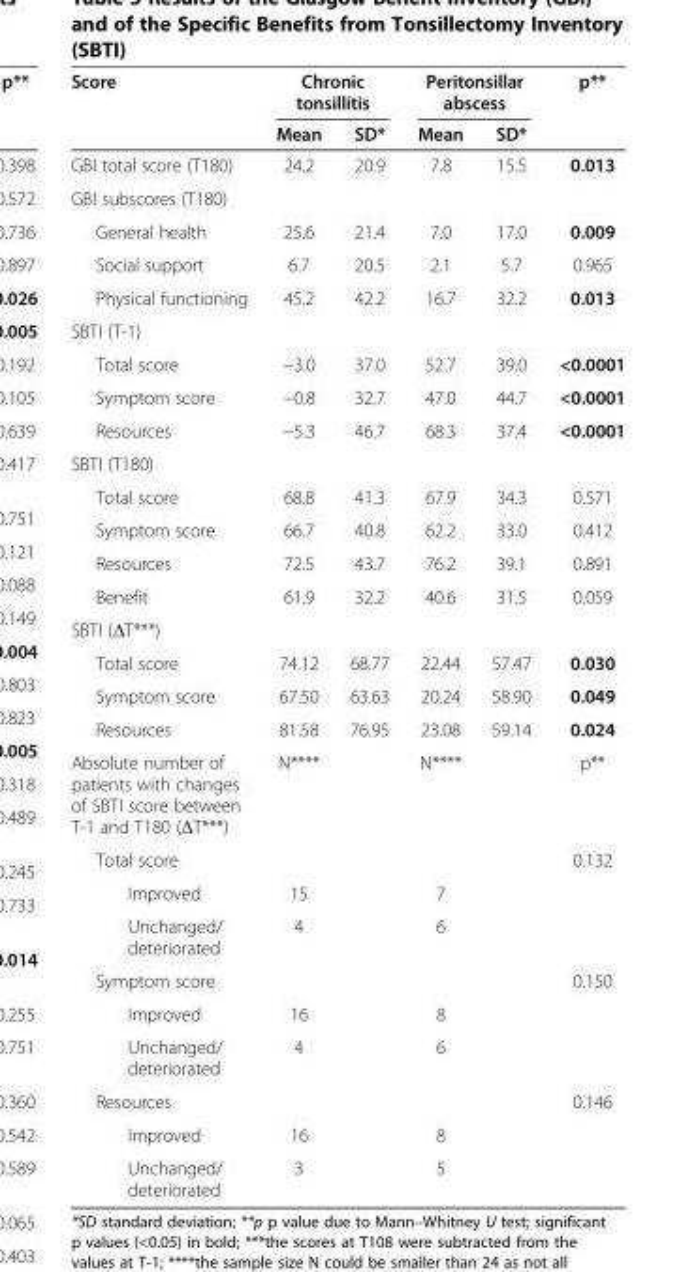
<table><thead><tr><td rowspan="2">Score</td><td colspan="2">Chronic tonsillitis</td><td colspan="2">Peritonsillar abscess</td><td rowspan="2">p**</td></tr><tr><td>Mean</td><td>SD*</td><td>Mean</td><td>SD*</td></tr></thead><tbody><tr><td>GBI total score (T180)</td><td>24.2</td><td>20.9</td><td>7.8</td><td>15.5</td><td>0.013</td></tr><tr><td colspan="6">GBI subscores (T180)</td></tr><tr><td>General health</td><td>25.6</td><td>21.4</td><td>7.0</td><td>17.0</td><td>0.009</td></tr><tr><td>Social support</td><td>6.7</td><td>20.5</td><td>2.1</td><td>5.7</td><td>0.965</td></tr><tr><td>Physical functioning</td><td>45.2</td><td>42.2</td><td>16.7</td><td>32.2</td><td>0.013</td></tr><tr><td colspan="6">SBTI (T-1)</td></tr><tr><td>Total score</td><td>−3.0</td><td>37.0</td><td>52.7</td><td>39.0</td><td>&lt;0.0001</td></tr><tr><td>Symptom score</td><td>−0.8</td><td>32.7</td><td>47.0</td><td>44.7</td><td>&lt;0.0001</td></tr><tr><td>Resources</td><td>−5.3</td><td>46.7</td><td>68.3</td><td>37.4</td><td>&lt;0.0001</td></tr><tr><td colspan="6">SBTI (T180)</td></tr><tr><td>Total score</td><td>68.8</td><td>41.3</td><td>67.9</td><td>34.3</td><td>0.571</td></tr><tr><td>Symptom score</td><td>66.7</td><td>40.8</td><td>62.2</td><td>33.0</td><td>0.412</td></tr><tr><td>Resources</td><td>72.5</td><td>43.7</td><td>76.2</td><td>39.1</td><td>0.891</td></tr><tr><td>Benefit</td><td>61.9</td><td>32.2</td><td>40.6</td><td>31.5</td><td>0.059</td></tr><tr><td colspan="6">SBTI (ΔT***)</td></tr><tr><td>Total score</td><td>74.12</td><td>68.77</td><td>22.44</td><td>57.47</td><td>0.030</td></tr><tr><td>Symptom score</td><td>67.50</td><td>63.63</td><td>20.24</td><td>58.90</td><td>0.049</td></tr><tr><td>Resources</td><td>81.58</td><td>76.95</td><td>23.08</td><td>59.14</td><td>0.024</td></tr><tr><td>Absolute number of patients with changes of SBTI score between T-1 and T180 (ΔT***)</td><td>N****</td><td></td><td>N****</td><td></td><td>p**</td></tr><tr><td colspan="5">Total score</td><td>0.132</td></tr><tr><td>Improved</td><td>15</td><td></td><td>7</td><td></td><td></td></tr><tr><td>Unchanged/ deteriorated</td><td>4</td><td></td><td>6</td><td></td><td></td></tr><tr><td colspan="5">Symptom score</td><td>0.150</td></tr><tr><td>Improved</td><td>16</td><td></td><td>8</td><td></td><td></td></tr><tr><td>Unchanged/ deteriorated</td><td>4</td><td></td><td>6</td><td></td><td></td></tr><tr><td colspan="5">Resources</td><td>0.146</td></tr><tr><td>Improved</td><td>16</td><td></td><td>8</td><td></td><td></td></tr><tr><td>Unchanged/ deteriorated</td><td>3</td><td></td><td>5</td><td></td><td></td></tr></tbody></table>